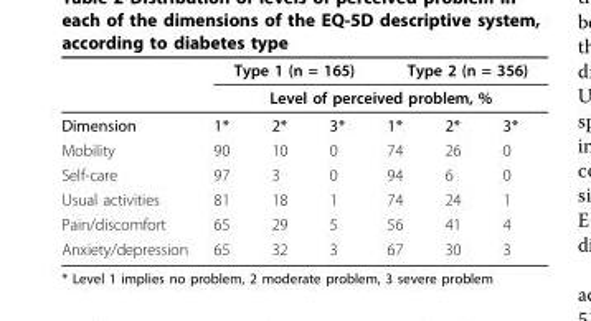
<table><thead><tr><td rowspan="3">Dimension</td><td colspan="3">Type 1 (n = 165)</td><td colspan="3">Type 2 (n = 356)</td></tr><tr><td colspan="6">Level of perceived problem, %</td></tr><tr><td>1*</td><td>2*</td><td>3*</td><td>1*</td><td>2*</td><td>3*</td></tr></thead><tbody><tr><td>Mobility</td><td>90</td><td>10</td><td>0</td><td>74</td><td>26</td><td>0</td></tr><tr><td>Self-care</td><td>97</td><td>3</td><td>0</td><td>94</td><td>6</td><td>0</td></tr><tr><td>Usual activities</td><td>81</td><td>18</td><td>1</td><td>74</td><td>24</td><td>1</td></tr><tr><td>Pain/discomfort</td><td>65</td><td>29</td><td>5</td><td>56</td><td>41</td><td>4</td></tr><tr><td>Anxiety/depression</td><td>65</td><td>32</td><td>3</td><td>67</td><td>30</td><td>3</td></tr></tbody></table>